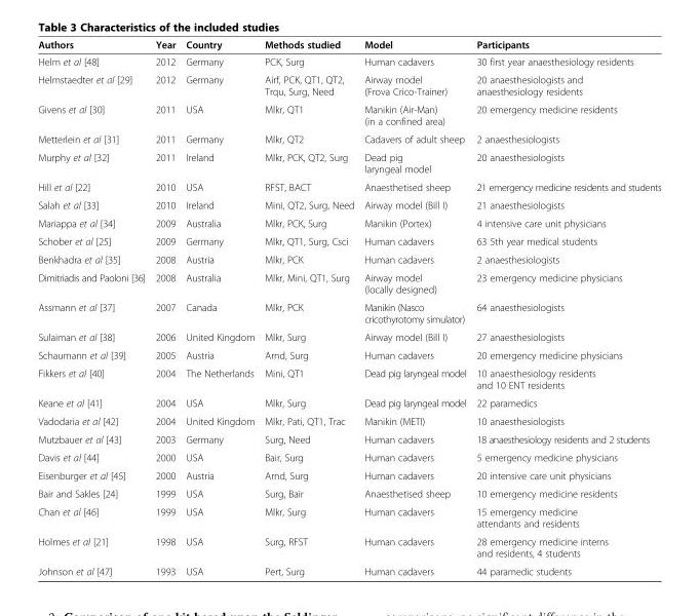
<table><thead><tr><td>Authors</td><td>Year</td><td>Country</td><td>Methods studied</td><td>Model</td><td>Participants</td></tr></thead><tbody><tr><td>Helm et al [48]</td><td>2012</td><td>Germany</td><td>PCK, Surg</td><td>Human cadavers</td><td>30 first year anaesthesiology residents</td></tr><tr><td>Helmstaedter et al [29]</td><td>2012</td><td>Germany</td><td>Airf, PCK, QT1, QT2, Trqu, Surg, Need</td><td>Airway model (Frova Crico-Trainer)</td><td>20 anaesthesiologists and anaesthesiology residents</td></tr><tr><td>Givens et al [30]</td><td>2011</td><td>USA</td><td>Mlkr, QT1</td><td>Manikin (Air-Man) (in a confined area)</td><td>20 emergency medicine residents</td></tr><tr><td>Metterlein et al [31]</td><td>2011</td><td>Germany</td><td>Mlkr, QT2</td><td>Cadavers of adult sheep</td><td>2 anaesthesiologists</td></tr><tr><td>Murphy et al [32]</td><td>2011</td><td>Ireland</td><td>Mlkr, PCK, QT2, Surg</td><td>Dead pig laryngeal model</td><td>20 anaesthesiologists</td></tr><tr><td>Hill et al [22]</td><td>2010</td><td>USA</td><td>RFST, BACT</td><td>Anaesthetised sheep</td><td>21 emergency medicine residents and students</td></tr><tr><td>Salah et al [33]</td><td>2010</td><td>Ireland</td><td>Mini, QT2, Surg, Need</td><td>Airway model (Bill I)</td><td>21 anaesthesiologists</td></tr><tr><td>Mariappa et al [34]</td><td>2009</td><td>Australia</td><td>Mlkr, PCK, Surg</td><td>Manikin (Portex)</td><td>4 intensive care unit physicians</td></tr><tr><td>Schober et al [25]</td><td>2009</td><td>Germany</td><td>Mlkr, QT1, Surg, Csci</td><td>Human cadavers</td><td>63 5th year medical students</td></tr><tr><td>Benkhadra et al [35]</td><td>2008</td><td>Austria</td><td>Mlkr, PCK</td><td>Human cadavers</td><td>2 anaesthesiologists</td></tr><tr><td>Dimitriadis and Paoloni [36]</td><td>2008</td><td>Australia</td><td>Mlkr, Mini, QT1, Surg</td><td>Airway model (locally designed)</td><td>23 emergency medicine physicians</td></tr><tr><td>Assmann et al [37]</td><td>2007</td><td>Canada</td><td>Mlkr, PCK</td><td>Manikin (Nasco cricothyrotomy simulator)</td><td>64 anaesthesiologists</td></tr><tr><td>Sulaiman et al [38]</td><td>2006</td><td>United Kingdom</td><td>Mlkr, Surg</td><td>Airway model (Bill I)</td><td>27 anaesthesiologists</td></tr><tr><td>Schaumann et al [39]</td><td>2005</td><td>Austria</td><td>Arnd, Surg</td><td>Human cadavers</td><td>20 emergency medicine physicians</td></tr><tr><td>Fikkers et al [40]</td><td>2004</td><td>The Netherlands</td><td>Mini, QT1</td><td>Dead pig laryngeal model</td><td>10 anaesthesiology residents and 10 ENT residents</td></tr><tr><td>Keane et al [41]</td><td>2004</td><td>USA</td><td>Mlkr, Surg</td><td>Dead pig laryngeal model</td><td>22 paramedics</td></tr><tr><td>Vadodaria et al [42]</td><td>2004</td><td>United Kingdom</td><td>Mlkr, Pati, QT1, Trac</td><td>Manikin (METI)</td><td>10 anaesthesiologists</td></tr><tr><td>Mutzbauer et al [43]</td><td>2003</td><td>Germany</td><td>Surg, Need</td><td>Human cadavers</td><td>18 anaesthesiology residents and 2 students</td></tr><tr><td>Davis et al [44]</td><td>2000</td><td>USA</td><td>Bair, Surg</td><td>Human cadavers</td><td>5 emergency medicine physicians</td></tr><tr><td>Eisenburger et al [45]</td><td>2000</td><td>Austria</td><td>Arnd, Surg</td><td>Human cadavers</td><td>20 intensive care unit physicians</td></tr><tr><td>Bair and Sakles [24]</td><td>1999</td><td>USA</td><td>Surg, Bair</td><td>Anaesthetised sheep</td><td>10 emergency medicine residents</td></tr><tr><td>Chan et al [46]</td><td>1999</td><td>USA</td><td>Mlkr, Surg</td><td>Human cadavers</td><td>15 emergency medicine attendants and residents</td></tr><tr><td>Holmes et al [21]</td><td>1998</td><td>USA</td><td>Surg, RFST</td><td>Human cadavers</td><td>28 emergency medicine interns and residents, 4 students</td></tr><tr><td>Johnson et al [47]</td><td>1993</td><td>USA</td><td>Pert, Surg</td><td>Human cadavers</td><td>44 paramedic students</td></tr></tbody></table>